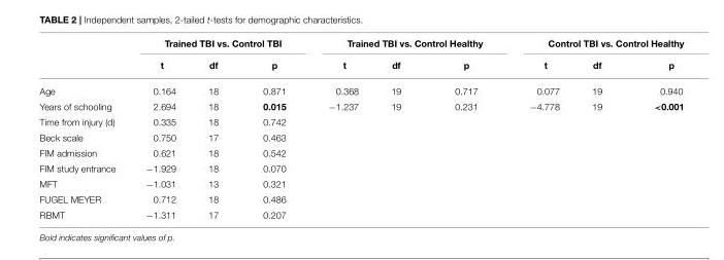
<table><thead><tr><td rowspan="2"></td><td colspan="3">Trained TBI vs. Control TBI</td><td colspan="3">Trained TBI vs. Control Healthy</td><td colspan="3">Control TBI vs. Control Healthy</td></tr><tr><td>t</td><td>df</td><td>p</td><td>t</td><td>df</td><td>p</td><td>t</td><td>df</td><td>p</td></tr></thead><tbody><tr><td>Age</td><td>0.164</td><td>18</td><td>0.871</td><td>0.368</td><td>19</td><td>0.717</td><td>0.077</td><td>19</td><td>0.940</td></tr><tr><td>Years of schooling</td><td>2.694</td><td>18</td><td>0.015</td><td>−1.237</td><td>19</td><td>0.231</td><td>−4.778</td><td>19</td><td>&lt;0.001</td></tr><tr><td>Time from injury (d)</td><td>0.335</td><td>18</td><td>0.742</td><td></td><td></td><td></td><td></td><td></td><td></td></tr><tr><td>Beck scale</td><td>0.750</td><td>17</td><td>0.463</td><td></td><td></td><td></td><td></td><td></td><td></td></tr><tr><td>FIM admission</td><td>0.621</td><td>18</td><td>0.542</td><td></td><td></td><td></td><td></td><td></td><td></td></tr><tr><td>FIM study entrance</td><td>−1.929</td><td>18</td><td>0.070</td><td></td><td></td><td></td><td></td><td></td><td></td></tr><tr><td>MFT</td><td>−1.031</td><td>13</td><td>0.321</td><td></td><td></td><td></td><td></td><td></td><td></td></tr><tr><td>FUGEL MEYER</td><td>0.712</td><td>18</td><td>0.486</td><td></td><td></td><td></td><td></td><td></td><td></td></tr><tr><td>RBMT</td><td>−1.311</td><td>17</td><td>0.207</td><td></td><td></td><td></td><td></td><td></td><td></td></tr></tbody></table>